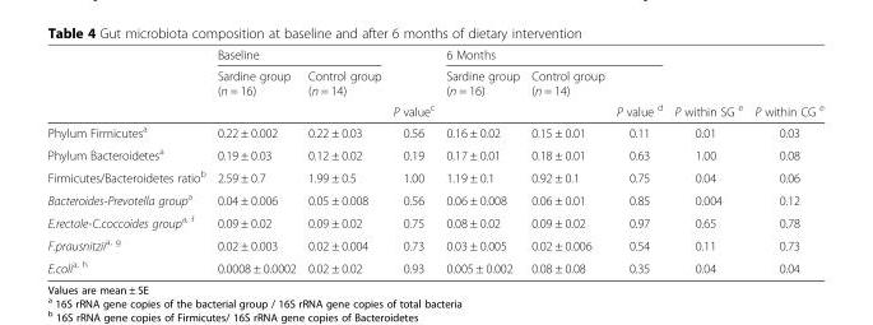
<table><thead><tr><td rowspan="3"></td><td colspan="2">Baseline</td><td rowspan="3">P value<sup>c</sup></td><td colspan="3">6 Months</td><td rowspan="3">P within SG <sup>e</sup></td><td rowspan="3">P within CG <sup>e</sup></td></tr><tr><td rowspan="2">Sardine group (n = 16)</td><td rowspan="2">Control group (n = 14)</td><td rowspan="2">Sardine group (n = 16)</td><td rowspan="2">Control group (n = 14)</td><td rowspan="2">P value <sup>d</sup></td></tr><tr></tr></thead><tbody><tr><td>Phylum Firmicutes<sup>a</sup></td><td>0.22 ± 0.002</td><td>0.22 ± 0.03</td><td>0.56</td><td>0.16 ± 0.02</td><td>0.15 ± 0.01</td><td>0.11</td><td>0.01</td><td>0.03</td></tr><tr><td>Phylum Bacteroidetes<sup>a</sup></td><td>0.19 ± 0.03</td><td>0.12 ± 0.02</td><td>0.19</td><td>0.17 ± 0.01</td><td>0.18 ± 0.01</td><td>0.63</td><td>1.00</td><td>0.08</td></tr><tr><td>Firmicutes/Bacteroidetes ratio<sup>b</sup></td><td>2.59 ± 0.7</td><td>1.99 ± 0.5</td><td>1.00</td><td>1.19 ± 0.1</td><td>0.92 ± 0.1</td><td>0.75</td><td>0.04</td><td>0.06</td></tr><tr><td>Bacteroides-Prevotella group<sup>a</sup></td><td>0.04 ± 0.006</td><td>0.05 ± 0.008</td><td>0.56</td><td>0.06 ± 0.008</td><td>0.06 ± 0.01</td><td>0.85</td><td>0.004</td><td>0.12</td></tr><tr><td>E.rectale-C.coccoides group<sup>a, f</sup></td><td>0.09 ± 0.02</td><td>0.09 ± 0.02</td><td>0.75</td><td>0.08 ± 0.02</td><td>0.09 ± 0.02</td><td>0.97</td><td>0.65</td><td>0.78</td></tr><tr><td>F.prausnitzii<sup>a, g</sup></td><td>0.02 ± 0.003</td><td>0.02 ± 0.004</td><td>0.73</td><td>0.03 ± 0.005</td><td>0.02 ± 0.006</td><td>0.54</td><td>0.11</td><td>0.73</td></tr><tr><td>E.coli<sup>a, h</sup></td><td>0.0008 ± 0.0002</td><td>0.02 ± 0.02</td><td>0.93</td><td>0.005 ± 0.002</td><td>0.08 ± 0.08</td><td>0.35</td><td>0.04</td><td>0.04</td></tr></tbody></table>